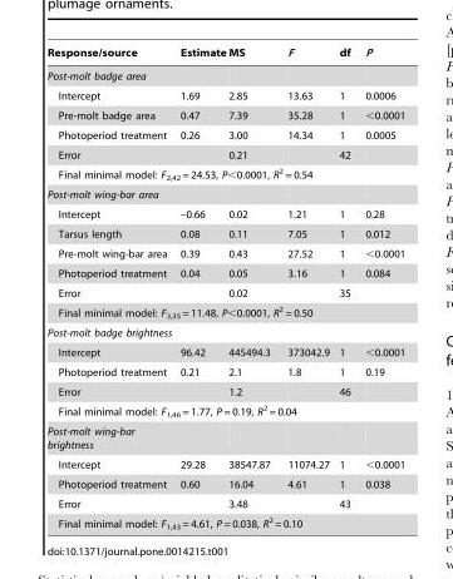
<table><thead><tr><td>Response/source</td><td>Estimate</td><td>MS</td><td>F</td><td>df</td><td>P</td></tr></thead><tbody><tr><td colspan="6">Post-molt badge area</td></tr><tr><td>Intercept</td><td>1.69</td><td>2.85</td><td>13.63</td><td>1</td><td>0.0006</td></tr><tr><td>Pre-molt badge area</td><td>0.47</td><td>7.39</td><td>35.28</td><td>1</td><td>&lt;0.0001</td></tr><tr><td>Photoperiod treatment</td><td>0.26</td><td>3.00</td><td>14.34</td><td>1</td><td>0.0005</td></tr><tr><td>Error</td><td></td><td>0.21</td><td></td><td>42</td><td></td></tr><tr><td colspan="6">Final minimal model: F<sub>2,42</sub> = 24.53, P&lt;0.0001, R<sup>2</sup> = 0.54</td></tr><tr><td colspan="6">Post-molt wing-bar area</td></tr><tr><td>Intercept</td><td>–0.66</td><td>0.02</td><td>1.21</td><td>1</td><td>0.28</td></tr><tr><td>Tarsus length</td><td>0.08</td><td>0.11</td><td>7.05</td><td>1</td><td>0.012</td></tr><tr><td>Pre-molt wing-bar area</td><td>0.39</td><td>0.43</td><td>27.52</td><td>1</td><td>&lt;0.0001</td></tr><tr><td>Photoperiod treatment</td><td>0.04</td><td>0.05</td><td>3.16</td><td>1</td><td>0.084</td></tr><tr><td>Error</td><td></td><td>0.02</td><td></td><td>35</td><td></td></tr><tr><td colspan="6">Final minimal model: F<sub>3,35</sub> = 11.48, P&lt;0.0001, R<sup>2</sup> = 0.50</td></tr><tr><td colspan="6">Post-molt badge brightness</td></tr><tr><td>Intercept</td><td>96.42</td><td>445494.3</td><td>373042.9</td><td>1</td><td>&lt;0.0001</td></tr><tr><td>Photoperiod treatment</td><td>0.21</td><td>2.1</td><td>1.8</td><td>1</td><td>0.19</td></tr><tr><td>Error</td><td></td><td>1.2</td><td></td><td>46</td><td></td></tr><tr><td colspan="6">Final minimal model: F<sub>1,46</sub> = 1.77, P = 0.19, R<sup>2</sup> = 0.04</td></tr><tr><td colspan="6">Post-molt wing-bar brightness</td></tr><tr><td>Intercept</td><td>29.28</td><td>38547.87</td><td>11074.27</td><td>1</td><td>&lt;0.0001</td></tr><tr><td>Photoperiod treatment</td><td>0.60</td><td>16.04</td><td>4.61</td><td>1</td><td>0.038</td></tr><tr><td>Error</td><td></td><td>3.48</td><td></td><td>43</td><td></td></tr><tr><td colspan="6">Final minimal model: F<sub>1,43</sub> = 4.61, P = 0.038, R<sup>2</sup> = 0.10</td></tr></tbody></table>